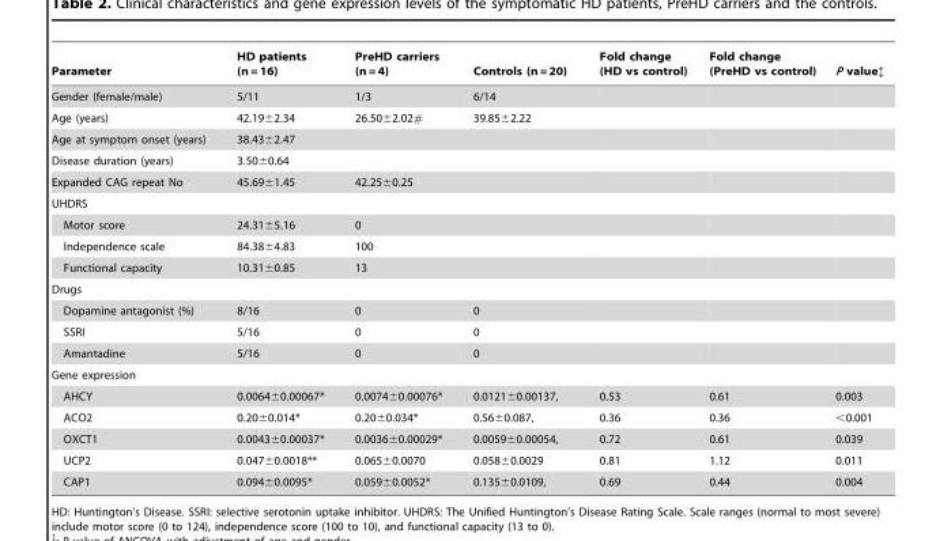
<table><thead><tr><td>Parameter</td><td>HD patients (n = 16)</td><td>PreHD carriers (n = 4)</td><td>Controls (n = 20)</td><td>Fold change (HD vs control)</td><td>Fold change (PreHD vs control)</td><td>P value‡</td></tr></thead><tbody><tr><td>Gender (female/male)</td><td>5/11</td><td>1/3</td><td>6/14</td><td></td><td></td><td></td></tr><tr><td>Age (years)</td><td>42.19±2.34</td><td>26.50±2.02#</td><td>39.85±2.22</td><td></td><td></td><td></td></tr><tr><td>Age at symptom onset (years)</td><td>38.43±2.47</td><td></td><td></td><td></td><td></td><td></td></tr><tr><td>Disease duration (years)</td><td>3.50±0.64</td><td></td><td></td><td></td><td></td><td></td></tr><tr><td>Expanded CAG repeat No</td><td>45.69±1.45</td><td>42.25±0.25</td><td></td><td></td><td></td><td></td></tr><tr><td colspan="7">UHDRS</td></tr><tr><td>Motor score</td><td>24.31±5.16</td><td>0</td><td></td><td></td><td></td><td></td></tr><tr><td>Independence scale</td><td>84.38±4.83</td><td>100</td><td></td><td></td><td></td><td></td></tr><tr><td>Functional capacity</td><td>10.31±0.85</td><td>13</td><td></td><td></td><td></td><td></td></tr><tr><td colspan="7">Drugs</td></tr><tr><td>Dopamine antagonist (%)</td><td>8/16</td><td>0</td><td>0</td><td></td><td></td><td></td></tr><tr><td>SSRI</td><td>5/16</td><td>0</td><td>0</td><td></td><td></td><td></td></tr><tr><td>Amantadine</td><td>5/16</td><td>0</td><td>0</td><td></td><td></td><td></td></tr><tr><td colspan="7">Gene expression</td></tr><tr><td>AHCY</td><td>0.0064±0.00067*</td><td>0.0074±0.00076*</td><td>0.0121±0.00137,</td><td>0.53</td><td>0.61</td><td>0.003</td></tr><tr><td>ACO2</td><td>0.20±0.014*</td><td>0.20±0.034*</td><td>0.56±0.087,</td><td>0.36</td><td>0.36</td><td>&lt;0.001</td></tr><tr><td>OXCT1</td><td>0.0043±0.00037*</td><td>0.0036±0.00029*</td><td>0.0059±0.00054,</td><td>0.72</td><td>0.61</td><td>0.039</td></tr><tr><td>UCP2</td><td>0.047±0.0018**</td><td>0.065±0.0070</td><td>0.058±0.0029</td><td>0.81</td><td>1.12</td><td>0.011</td></tr><tr><td>CAP1</td><td>0.094±0.0095*</td><td>0.059±0.0052*</td><td>0.135±0.0109,</td><td>0.69</td><td>0.44</td><td>0.004</td></tr></tbody></table>